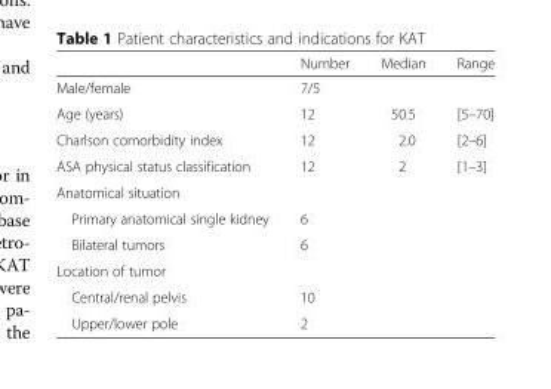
<table><thead><tr><td></td><td>Number</td><td>Median</td><td>Range</td></tr></thead><tbody><tr><td>Male/female</td><td>7/5</td><td></td><td></td></tr><tr><td>Age (years)</td><td>12</td><td>50.5</td><td>[5–70]</td></tr><tr><td>Charlson comorbidity index</td><td>12</td><td>2.0</td><td>[2–6]</td></tr><tr><td>ASA physical status classification</td><td>12</td><td>2</td><td>[1–3]</td></tr><tr><td colspan="4">Anatomical situation</td></tr><tr><td>Primary anatomical single kidney</td><td>6</td><td></td><td></td></tr><tr><td>Bilateral tumors</td><td>6</td><td></td><td></td></tr><tr><td colspan="4">Location of tumor</td></tr><tr><td>Central/renal pelvis</td><td>10</td><td></td><td></td></tr><tr><td>Upper/lower pole</td><td>2</td><td></td><td></td></tr></tbody></table>